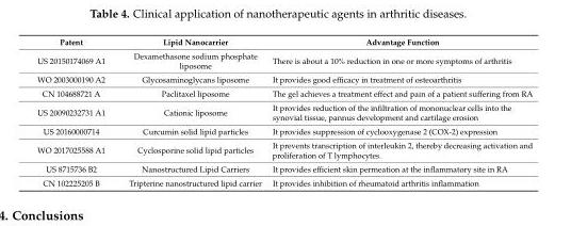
<table><thead><tr><td>Patent</td><td>Lipid Nanocarrier</td><td>Advantage Function</td></tr></thead><tbody><tr><td>US 20150174069 A1</td><td>Dexamethasone sodium phosphate liposome</td><td>There is about a 10% reduction in one or more symptoms of arthritis</td></tr><tr><td>WO 2003000190 A2</td><td>Glycosaminoglycans liposome</td><td>It provides good efficacy in treatment of osteoarthritis</td></tr><tr><td>CN 104688721 A</td><td>Paclitaxel liposome</td><td>The gel achieves a treatment effect and pain of a patient suffering from RA</td></tr><tr><td>US 20090232731 A1</td><td>Cationic liposome</td><td>It provides reduction of the infiltration of mononuclear cells into the synovial tissue, pannus development and cartilage erosion</td></tr><tr><td>US 20160000714</td><td>Curcumin solid lipid particles</td><td>It provides suppression of cyclooxygenase 2 (COX-2) expression</td></tr><tr><td>WO 2017025588 A1</td><td>Cyclosporine solid lipid particles</td><td>It prevents transcription of interleukin 2, thereby decreasing activation and proliferation of T lymphocytes.</td></tr><tr><td>US 8715736 B2</td><td>Nanostructured Lipid Carriers</td><td>It provides efficient skin permeation at the inflammatory site in RA</td></tr><tr><td>CN 102225205 B</td><td>Tripterine nanostructured lipid carrier</td><td>It provides inhibition of rheumatoid arthritis inflammation</td></tr></tbody></table>